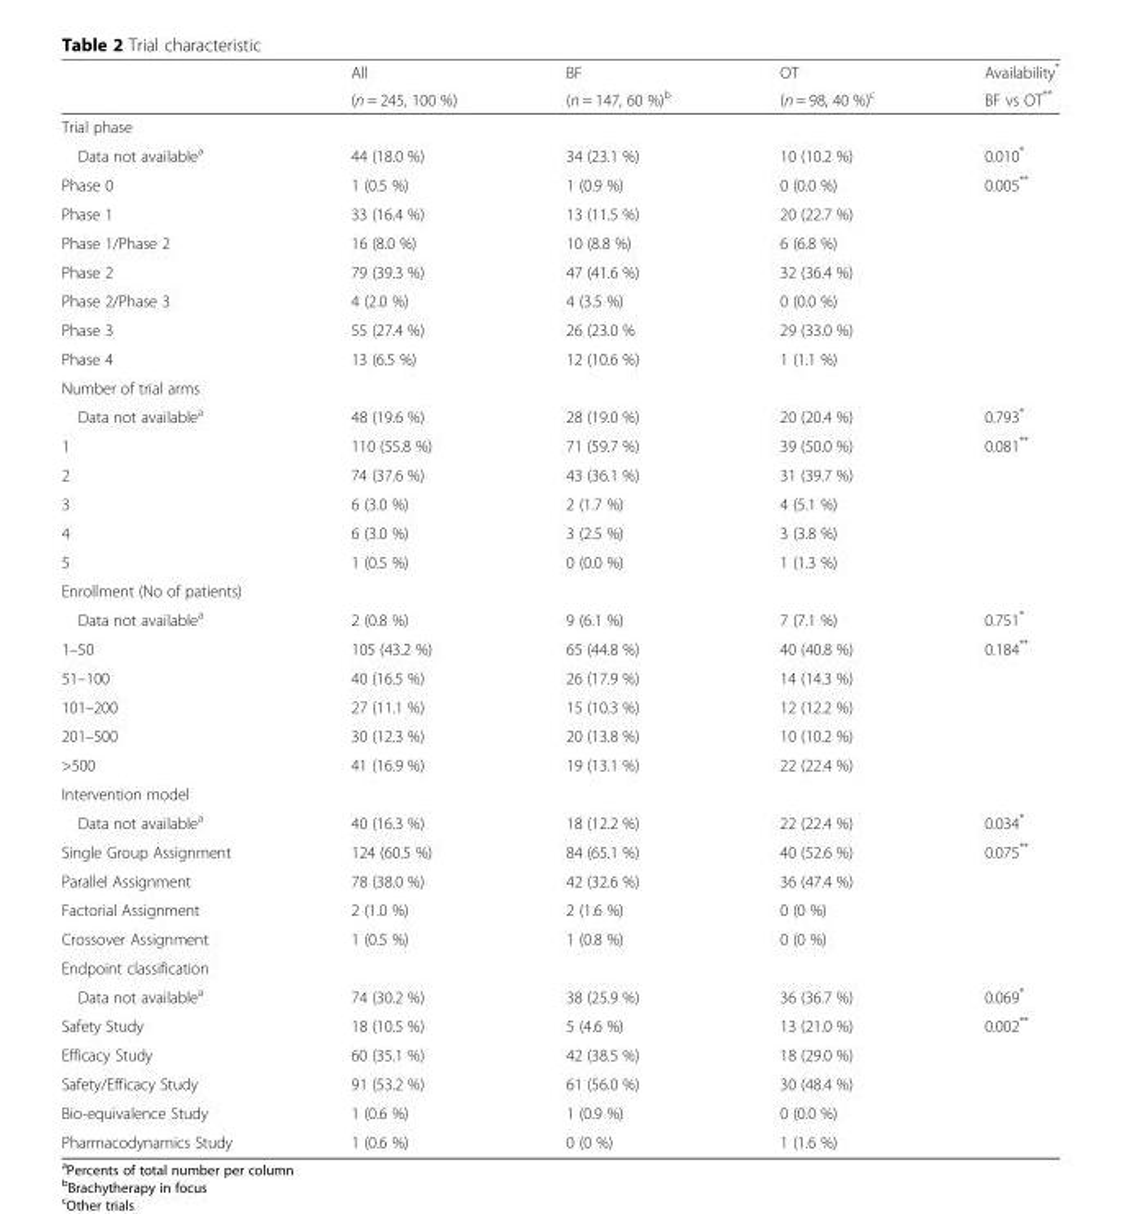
<table><thead><tr><td rowspan="2"></td><td rowspan="2">All (n = 245, 100 %)</td><td rowspan="2">BF (n = 147, 60 %)<sup>b</sup></td><td rowspan="2">OT (n = 98, 40 %)<sup>c</sup></td><td rowspan="2">Availability* BF vs OT**</td></tr><tr></tr></thead><tbody><tr><td colspan="5">Trial phase</td></tr><tr><td>Data not available<sup>a</sup></td><td>44 (18.0 %)</td><td>34 (23.1 %)</td><td>10 (10.2 %)</td><td>0.010*</td></tr><tr><td>Phase 0</td><td>1 (0.5 %)</td><td>1 (0.9 %)</td><td>0 (0.0 %)</td><td rowspan="7">0.005**</td></tr><tr><td>Phase 1</td><td>33 (16.4 %)</td><td>13 (11.5 %)</td><td>20 (22.7 %)</td></tr><tr><td>Phase 1/Phase 2</td><td>16 (8.0 %)</td><td>10 (8.8 %)</td><td>6 (6.8 %)</td></tr><tr><td>Phase 2</td><td>79 (39.3 %)</td><td>47 (41.6 %)</td><td>32 (36.4 %)</td></tr><tr><td>Phase 2/Phase 3</td><td>4 (2.0 %)</td><td>4 (3.5 %)</td><td>0 (0.0 %)</td></tr><tr><td>Phase 3</td><td>55 (27.4 %)</td><td>26 (23.0 %</td><td>29 (33.0 %)</td></tr><tr><td>Phase 4</td><td>13 (6.5 %)</td><td>12 (10.6 %)</td><td>1 (1.1 %)</td></tr><tr><td colspan="5">Number of trial arms</td></tr><tr><td>Data not available<sup>a</sup></td><td>48 (19.6 %)</td><td>28 (19.0 %)</td><td>20 (20.4 %)</td><td>0.793*</td></tr><tr><td>1</td><td>110 (55.8 %)</td><td>71 (59.7 %)</td><td>39 (50.0 %)</td><td rowspan="5">0.081**</td></tr><tr><td>2</td><td>74 (37.6 %)</td><td>43 (36.1 %)</td><td>31 (39.7 %)</td></tr><tr><td>3</td><td>6 (3.0 %)</td><td>2 (1.7 %)</td><td>4 (5.1 %)</td></tr><tr><td>4</td><td>6 (3.0 %)</td><td>3 (2.5 %)</td><td>3 (3.8 %)</td></tr><tr><td>5</td><td>1 (0.5 %)</td><td>0 (0.0 %)</td><td>1 (1.3 %)</td></tr><tr><td colspan="5">Enrollment (No of patients)</td></tr><tr><td>Data not available<sup>a</sup></td><td>2 (0.8 %)</td><td>9 (6.1 %)</td><td>7 (7.1 %)</td><td>0.751*</td></tr><tr><td>1–50</td><td>105 (43.2 %)</td><td>65 (44.8 %)</td><td>40 (40.8 %)</td><td rowspan="4">0.184**</td></tr><tr><td>51–100</td><td>40 (16.5 %)</td><td>26 (17.9 %)</td><td>14 (14.3 %)</td></tr><tr><td>101–200</td><td>27 (11.1 %)</td><td>15 (10.3 %)</td><td>12 (12.2 %)</td></tr><tr><td>201–500</td><td>30 (12.3 %)</td><td>20 (13.8 %)</td><td>10 (10.2 %)</td></tr><tr><td>&gt;500</td><td>41 (16.9 %)</td><td>19 (13.1 %)</td><td>22 (22.4 %)</td><td></td></tr><tr><td colspan="5">Intervention model</td></tr><tr><td>Data not available<sup>a</sup></td><td>40 (16.3 %)</td><td>18 (12.2 %)</td><td>22 (22.4 %)</td><td>0.034*</td></tr><tr><td>Single Group Assignment</td><td>124 (60.5 %)</td><td>84 (65.1 %)</td><td>40 (52.6 %)</td><td rowspan="4">0.075**</td></tr><tr><td>Parallel Assignment</td><td>78 (38.0 %)</td><td>42 (32.6 %)</td><td>36 (47.4 %)</td></tr><tr><td>Factorial Assignment</td><td>2 (1.0 %)</td><td>2 (1.6 %)</td><td>0 (0 %)</td></tr><tr><td>Crossover Assignment</td><td>1 (0.5 %)</td><td>1 (0.8 %)</td><td>0 (0 %)</td></tr><tr><td colspan="5">Endpoint classification</td></tr><tr><td>Data not available<sup>a</sup></td><td>74 (30.2 %)</td><td>38 (25.9 %)</td><td>36 (36.7 %)</td><td>0.069*</td></tr><tr><td>Safety Study</td><td>18 (10.5 %)</td><td>5 (4.6 %)</td><td>13 (21.0 %)</td><td rowspan="5">0.002**</td></tr><tr><td>Efficacy Study</td><td>60 (35.1 %)</td><td>42 (38.5 %)</td><td>18 (29.0 %)</td></tr><tr><td>Safety/Efficacy Study</td><td>91 (53.2 %)</td><td>61 (56.0 %)</td><td>30 (48.4 %)</td></tr><tr><td>Bio-equivalence Study</td><td>1 (0.6 %)</td><td>1 (0.9 %)</td><td>0 (0.0 %)</td></tr><tr><td>Pharmacodynamics Study</td><td>1 (0.6 %)</td><td>0 (0 %)</td><td>1 (1.6 %)</td></tr></tbody></table>